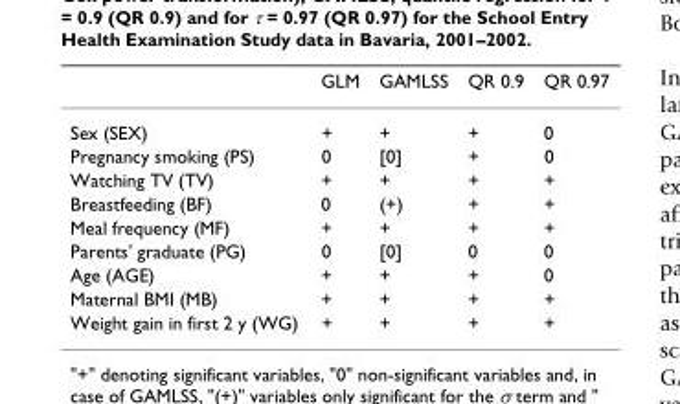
<table><thead><tr><td></td><td>GLM</td><td>GAMLSS</td><td>QR 0.9</td><td>QR 0.97</td></tr></thead><tbody><tr><td>Sex (SEX)</td><td>+</td><td>+</td><td>+</td><td>0</td></tr><tr><td>Pregnancy smoking (PS)</td><td>0</td><td>[0]</td><td>+</td><td>0</td></tr><tr><td>Watching TV (TV)</td><td>+</td><td>+</td><td>+</td><td>+</td></tr><tr><td>Breastfeeding (BF)</td><td>0</td><td>(+)</td><td>+</td><td>+</td></tr><tr><td>Meal frequency (MF)</td><td>+</td><td>+</td><td>+</td><td>+</td></tr><tr><td>Parents&#x27; graduate (PG)</td><td>0</td><td>[0]</td><td>0</td><td>0</td></tr><tr><td>Age (AGE)</td><td>+</td><td>+</td><td>+</td><td>0</td></tr><tr><td>Maternal BMI (MB)</td><td>+</td><td>+</td><td>+</td><td>+</td></tr><tr><td>Weight gain in first 2 y (WG)</td><td>+</td><td>+</td><td>+</td><td>+</td></tr></tbody></table>